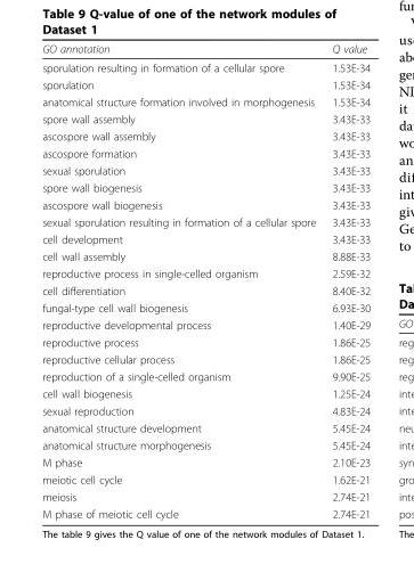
<table><thead><tr><td>GO annotation</td><td>Q value</td></tr></thead><tbody><tr><td>sporulation resulting in formation of a cellular spore</td><td>1.53E-34</td></tr><tr><td>sporulation</td><td>1.53E-34</td></tr><tr><td>anatomical structure formation involved in morphogenesis</td><td>1.53E-34</td></tr><tr><td>spore wall assembly</td><td>3.43E-33</td></tr><tr><td>ascospore wall assembly</td><td>3.43E-33</td></tr><tr><td>ascospore formation</td><td>3.43E-33</td></tr><tr><td>sexual sporulation</td><td>3.43E-33</td></tr><tr><td>spore wall biogenesis</td><td>3.43E-33</td></tr><tr><td>ascospore wall biogenesis</td><td>3.43E-33</td></tr><tr><td>sexual sporulation resulting in formation of a cellular spore</td><td>3.43E-33</td></tr><tr><td>cell development</td><td>3.43E-33</td></tr><tr><td>cell wall assembly</td><td>8.88E-33</td></tr><tr><td>reproductive process in single-celled organism</td><td>2.59E-32</td></tr><tr><td>cell differentiation</td><td>8.40E-32</td></tr><tr><td>fungal-type cell wall biogenesis</td><td>6.93E-30</td></tr><tr><td>reproductive developmental process</td><td>1.40E-29</td></tr><tr><td>reproductive process</td><td>1.86E-25</td></tr><tr><td>reproductive cellular process</td><td>1.86E-25</td></tr><tr><td>reproduction of a single-celled organism</td><td>9.90E-25</td></tr><tr><td>cell wall biogenesis</td><td>1.25E-24</td></tr><tr><td>sexual reproduction</td><td>4.83E-24</td></tr><tr><td>anatomical structure development</td><td>5.45E-24</td></tr><tr><td>anatomical structure morphogenesis</td><td>5.45E-24</td></tr><tr><td>M phase</td><td>2.10E-23</td></tr><tr><td>meiotic cell cycle</td><td>1.62E-21</td></tr><tr><td>meiosis</td><td>2.74E-21</td></tr><tr><td>M phase of meiotic cell cycle</td><td>2.74E-21</td></tr></tbody></table>